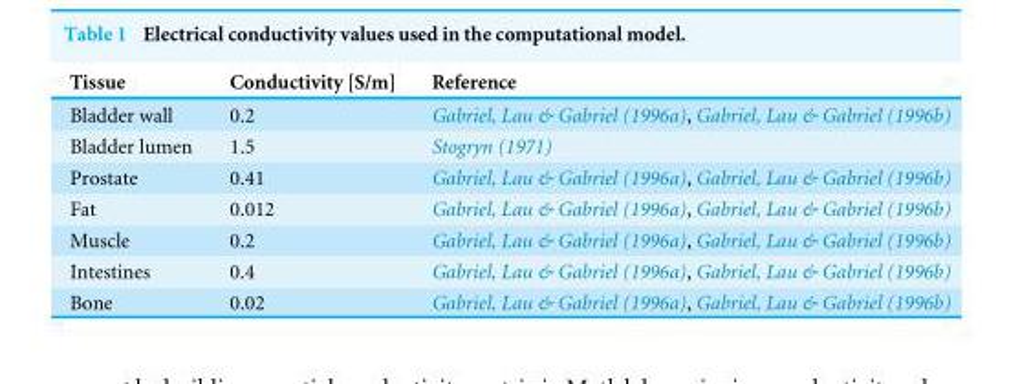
<table><thead><tr><td>Tissue</td><td>Conductivity [S/m]</td><td>Reference</td></tr></thead><tbody><tr><td>Bladder wall</td><td>0.2</td><td>Gabriel, Lau &amp; Gabriel (1996a), Gabriel, Lau &amp; Gabriel (1996b)</td></tr><tr><td>Bladder lumen</td><td>1.5</td><td>Stogryn (1971)</td></tr><tr><td>Prostate</td><td>0.41</td><td>Gabriel, Lau &amp; Gabriel (1996a), Gabriel, Lau &amp; Gabriel (1996b)</td></tr><tr><td>Fat</td><td>0.012</td><td>Gabriel, Lau &amp; Gabriel (1996a), Gabriel, Lau &amp; Gabriel (1996b)</td></tr><tr><td>Muscle</td><td>0.2</td><td>Gabriel, Lau &amp; Gabriel (1996a), Gabriel, Lau &amp; Gabriel (1996b)</td></tr><tr><td>Intestines</td><td>0.4</td><td>Gabriel, Lau &amp; Gabriel (1996a), Gabriel, Lau &amp; Gabriel (1996b)</td></tr><tr><td>Bone</td><td>0.02</td><td>Gabriel, Lau &amp; Gabriel (1996a), Gabriel, Lau &amp; Gabriel (1996b)</td></tr></tbody></table>